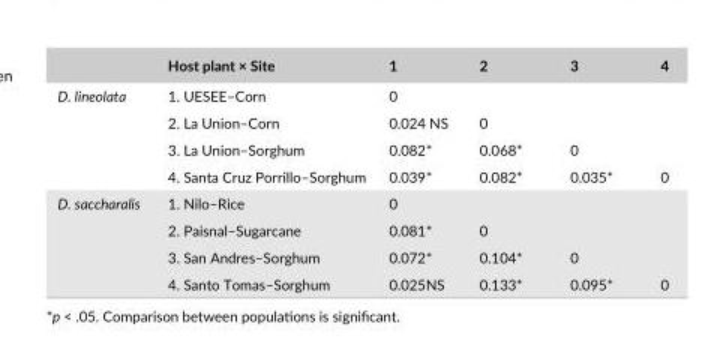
<table><thead><tr><td></td><td>Host plant × Site</td><td>1</td><td>2</td><td>3</td><td>4</td></tr></thead><tbody><tr><td rowspan="4">D. lineolata</td><td>1. UESEE–Corn</td><td>0</td><td></td><td></td><td></td></tr><tr><td>2. La Union–Corn</td><td>0.024 NS</td><td>0</td><td></td><td></td></tr><tr><td>3. La Union–Sorghum</td><td>0.082*</td><td>0.068*</td><td>0</td><td></td></tr><tr><td>4. Santa Cruz Porrillo–Sorghum</td><td>0.039*</td><td>0.082*</td><td>0.035*</td><td>0</td></tr><tr><td rowspan="4">D. saccharalis</td><td>1. Nilo–Rice</td><td>0</td><td></td><td></td><td></td></tr><tr><td>2. Paisnal–Sugarcane</td><td>0.081*</td><td>0</td><td></td><td></td></tr><tr><td>3. San Andres–Sorghum</td><td>0.072*</td><td>0.104*</td><td>0</td><td></td></tr><tr><td>4. Santo Tomas–Sorghum</td><td>0.025NS</td><td>0.133*</td><td>0.095*</td><td>0</td></tr></tbody></table>